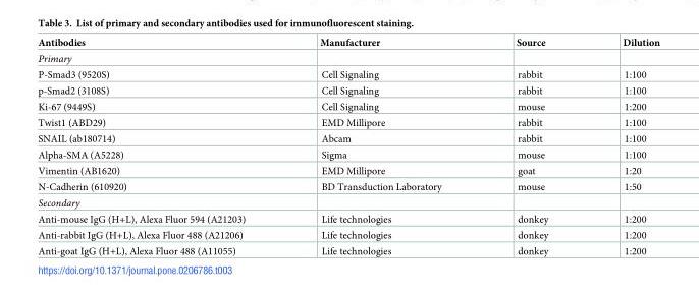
<table><thead><tr><td>Antibodies</td><td>Manufacturer</td><td>Source</td><td>Dilution</td></tr></thead><tbody><tr><td colspan="4">Primary</td></tr><tr><td>P-Smad3 (9520S)</td><td>Cell Signaling</td><td>rabbit</td><td>1:100</td></tr><tr><td>p-Smad2 (3108S)</td><td>Cell Signaling</td><td>rabbit</td><td>1:100</td></tr><tr><td>Ki-67 (9449S)</td><td>Cell Signaling</td><td>mouse</td><td>1:200</td></tr><tr><td>Twist1 (ABD29)</td><td>EMD Millipore</td><td>rabbit</td><td>1:100</td></tr><tr><td>SNAIL (ab180714)</td><td>Abcam</td><td>rabbit</td><td>1:100</td></tr><tr><td>Alpha-SMA (A5228)</td><td>Sigma</td><td>mouse</td><td>1:100</td></tr><tr><td>Vimentin (AB1620)</td><td>EMD Millipore</td><td>goat</td><td>1:20</td></tr><tr><td>N-Cadherin (610920)</td><td>BD Transduction Laboratory</td><td>mouse</td><td>1:50</td></tr><tr><td colspan="4">Secondary</td></tr><tr><td>Anti-mouse IgG (H+L), Alexa Fluor 594 (A21203)</td><td>Life technologies</td><td>donkey</td><td>1:200</td></tr><tr><td>Anti-rabbit IgG (H+L), Alexa Fluor 488 (A21206)</td><td>Life technologies</td><td>donkey</td><td>1:200</td></tr><tr><td>Anti-goat IgG (H+L), Alexa Fluor 488 (A11055)</td><td>Life technologies</td><td>donkey</td><td>1:200</td></tr></tbody></table>